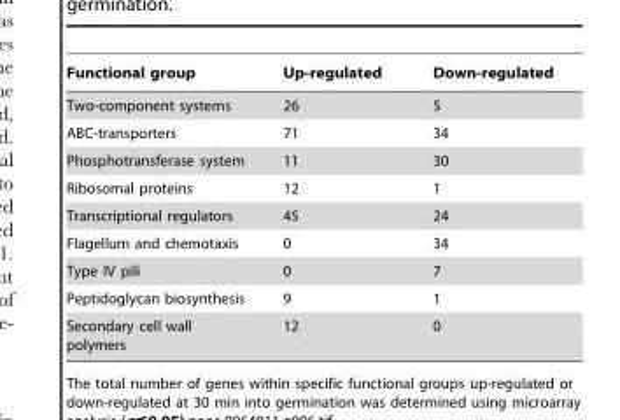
<table><thead><tr><td>Functional group</td><td>Up-regulated</td><td>Down-regulated</td></tr></thead><tbody><tr><td>Two-component systems</td><td>26</td><td>5</td></tr><tr><td>ABC-transporters</td><td>71</td><td>34</td></tr><tr><td>Phosphotransferase system</td><td>11</td><td>30</td></tr><tr><td>Ribosomal proteins</td><td>12</td><td>1</td></tr><tr><td>Transcriptional regulators</td><td>45</td><td>24</td></tr><tr><td>Flagellum and chemotaxis</td><td>0</td><td>34</td></tr><tr><td>Type IV pili</td><td>0</td><td>7</td></tr><tr><td>Peptidoglycan biosynthesis</td><td>9</td><td>1</td></tr><tr><td>Secondary cell wall polymers</td><td>12</td><td>0</td></tr></tbody></table>